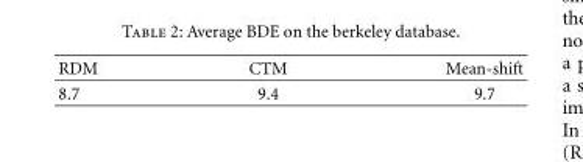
<table><thead><tr><td>RDM</td><td>CTM</td><td>Mean-shift</td></tr></thead><tbody><tr><td>8.7</td><td>9.4</td><td>9.7</td></tr></tbody></table>